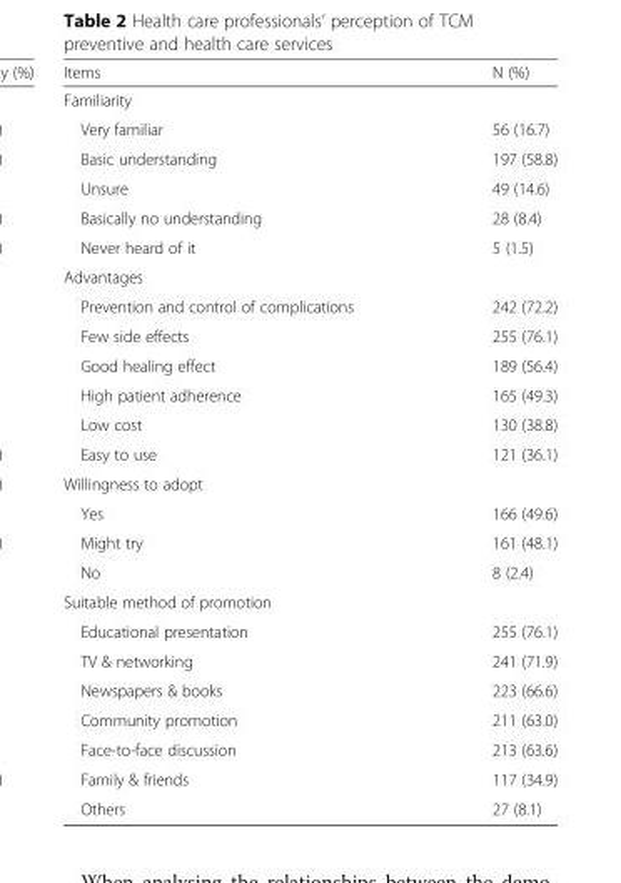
<table><thead><tr><td>Items</td><td>N (%)</td></tr></thead><tbody><tr><td colspan="2">Familiarity</td></tr><tr><td>Very familiar</td><td>56 (16.7)</td></tr><tr><td>Basic understanding</td><td>197 (58.8)</td></tr><tr><td>Unsure</td><td>49 (14.6)</td></tr><tr><td>Basically no understanding</td><td>28 (8.4)</td></tr><tr><td>Never heard of it</td><td>5 (1.5)</td></tr><tr><td colspan="2">Advantages</td></tr><tr><td>Prevention and control of complications</td><td>242 (72.2)</td></tr><tr><td>Few side effects</td><td>255 (76.1)</td></tr><tr><td>Good healing effect</td><td>189 (56.4)</td></tr><tr><td>High patient adherence</td><td>165 (49.3)</td></tr><tr><td>Low cost</td><td>130 (38.8)</td></tr><tr><td>Easy to use</td><td>121 (36.1)</td></tr><tr><td colspan="2">Willingness to adopt</td></tr><tr><td>Yes</td><td>166 (49.6)</td></tr><tr><td>Might try</td><td>161 (48.1)</td></tr><tr><td>No</td><td>8 (2.4)</td></tr><tr><td colspan="2">Suitable method of promotion</td></tr><tr><td>Educational presentation</td><td>255 (76.1)</td></tr><tr><td>TV &amp; networking</td><td>241 (71.9)</td></tr><tr><td>Newspapers &amp; books</td><td>223 (66.6)</td></tr><tr><td>Community promotion</td><td>211 (63.0)</td></tr><tr><td>Face-to-face discussion</td><td>213 (63.6)</td></tr><tr><td>Family &amp; friends</td><td>117 (34.9)</td></tr><tr><td>Others</td><td>27 (8.1)</td></tr></tbody></table>